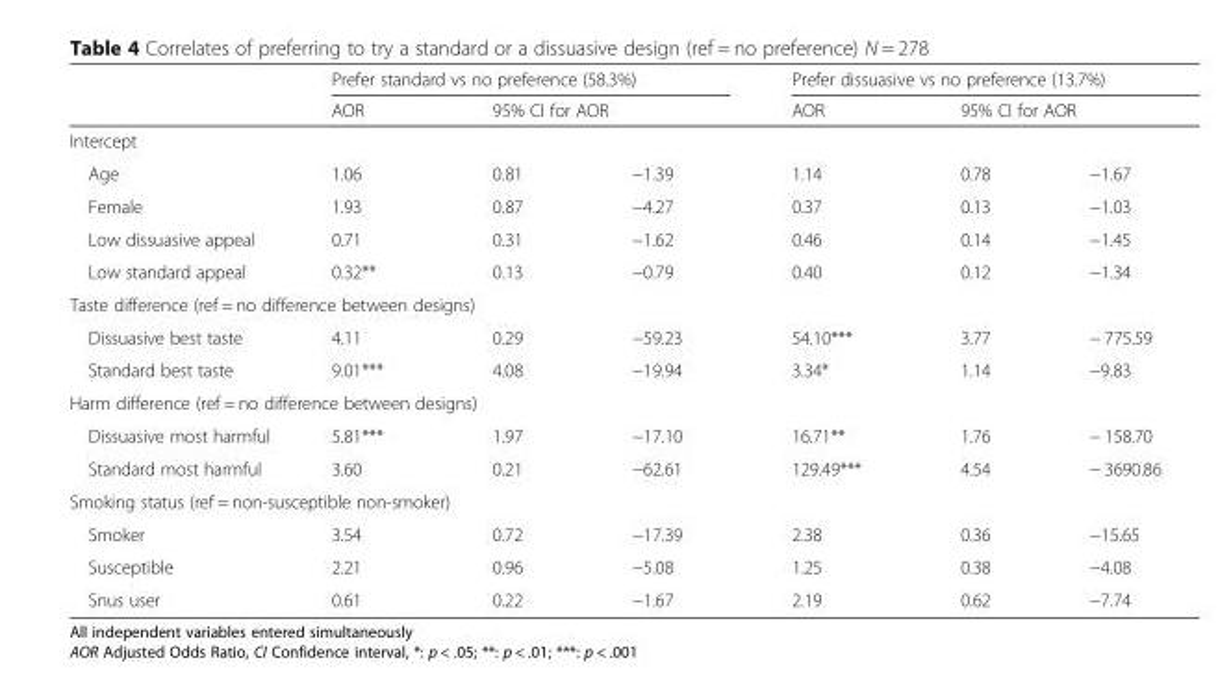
<table><thead><tr><td rowspan="2"></td><td colspan="3">Prefer standard vs no preference (58.3%)</td><td colspan="3">Prefer dissuasive vs no preference (13.7%)</td></tr><tr><td>AOR</td><td colspan="2">95% CI for AOR</td><td>AOR</td><td colspan="2">95% CI for AOR</td></tr><tr><td colspan="7">Intercept</td></tr><tr><td>Age</td><td>1.06</td><td>0.81</td><td>−1.39</td><td>1.14</td><td>0.78</td><td>−1.67</td></tr></thead><tbody><tr><td>Female</td><td>1.93</td><td>0.87</td><td>−4.27</td><td>0.37</td><td>0.13</td><td>−1.03</td></tr><tr><td>Low dissuasive appeal</td><td>0.71</td><td>0.31</td><td>−1.62</td><td>0.46</td><td>0.14</td><td>−1.45</td></tr><tr><td>Low standard appeal</td><td>0.32**</td><td>0.13</td><td>−0.79</td><td>0.40</td><td>0.12</td><td>−1.34</td></tr><tr><td colspan="7">Taste difference (ref = no difference between designs)</td></tr><tr><td>Dissuasive best taste</td><td>4.11</td><td>0.29</td><td>−59.23</td><td>54.10***</td><td>3.77</td><td>− 775.59</td></tr><tr><td>Standard best taste</td><td>9.01***</td><td>4.08</td><td>−19.94</td><td>3.34*</td><td>1.14</td><td>−9.83</td></tr><tr><td colspan="7">Harm difference (ref = no difference between designs)</td></tr><tr><td>Dissuasive most harmful</td><td>5.81***</td><td>1.97</td><td>−17.10</td><td>16.71**</td><td>1.76</td><td>− 158.70</td></tr><tr><td>Standard most harmful</td><td>3.60</td><td>0.21</td><td>−62.61</td><td>129.49***</td><td>4.54</td><td>− 3690.86</td></tr><tr><td colspan="7">Smoking status (ref = non-susceptible non-smoker)</td></tr><tr><td>Smoker</td><td>3.54</td><td>0.72</td><td>−17.39</td><td>2.38</td><td>0.36</td><td>−15.65</td></tr><tr><td>Susceptible</td><td>2.21</td><td>0.96</td><td>−5.08</td><td>1.25</td><td>0.38</td><td>−4.08</td></tr><tr><td>Snus user</td><td>0.61</td><td>0.22</td><td>−1.67</td><td>2.19</td><td>0.62</td><td>−7.74</td></tr></tbody></table>